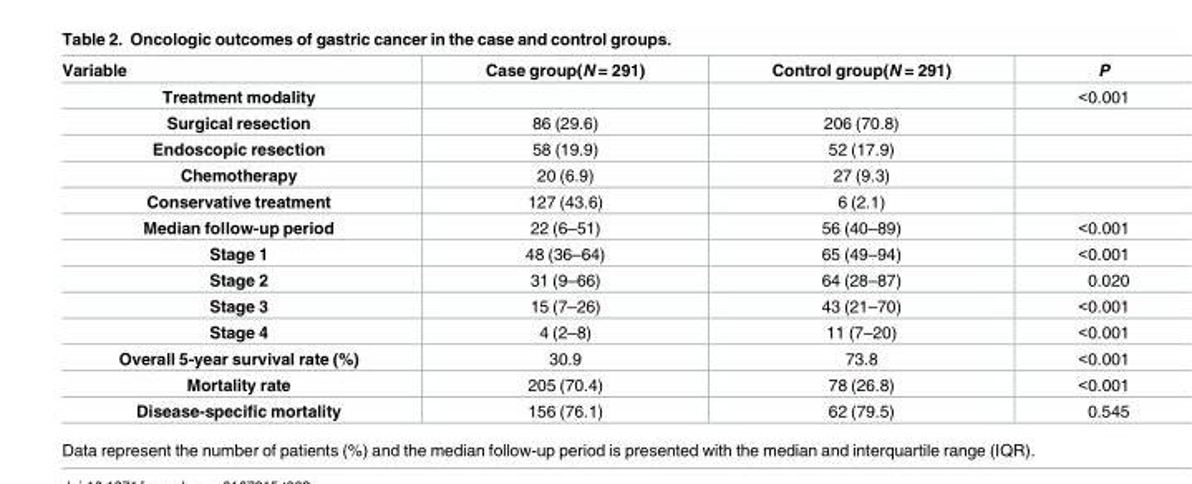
<table><thead><tr><td>Variable</td><td>Case group(N = 291)</td><td>Control group(N = 291)</td><td>P</td></tr></thead><tbody><tr><td>Treatment modality</td><td></td><td></td><td>&lt;0.001</td></tr><tr><td>Surgical resection</td><td>86 (29.6)</td><td>206 (70.8)</td><td></td></tr><tr><td>Endoscopic resection</td><td>58 (19.9)</td><td>52 (17.9)</td><td></td></tr><tr><td>Chemotherapy</td><td>20 (6.9)</td><td>27 (9.3)</td><td></td></tr><tr><td>Conservative treatment</td><td>127 (43.6)</td><td>6 (2.1)</td><td></td></tr><tr><td>Median follow-up period</td><td>22 (6–51)</td><td>56 (40–89)</td><td>&lt;0.001</td></tr><tr><td>Stage 1</td><td>48 (36–64)</td><td>65 (49–94)</td><td>&lt;0.001</td></tr><tr><td>Stage 2</td><td>31 (9–66)</td><td>64 (28–87)</td><td>0.020</td></tr><tr><td>Stage 3</td><td>15 (7–26)</td><td>43 (21–70)</td><td>&lt;0.001</td></tr><tr><td>Stage 4</td><td>4 (2–8)</td><td>11 (7–20)</td><td>&lt;0.001</td></tr><tr><td>Overall 5-year survival rate (%)</td><td>30.9</td><td>73.8</td><td>&lt;0.001</td></tr><tr><td>Mortality rate</td><td>205 (70.4)</td><td>78 (26.8)</td><td>&lt;0.001</td></tr><tr><td>Disease-specific mortality</td><td>156 (76.1)</td><td>62 (79.5)</td><td>0.545</td></tr></tbody></table>